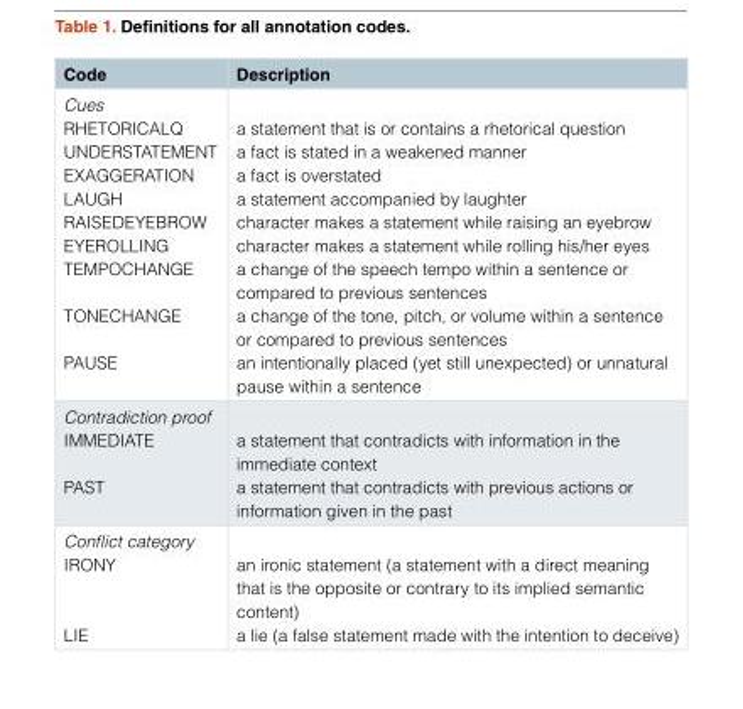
<table><thead><tr><td>Code</td><td>Description</td></tr></thead><tbody><tr><td>Cues RHETORICALQ UNDERSTATEMENT EXAGGERATION LAUGH RAISEDEYEBROW EYEROLLING TEMPOCHANGE TONECHANGE PAUSE</td><td>a statement that is or contains a rhetorical question a fact is stated in a weakened manner a fact is overstated a statement accompanied by laughter character makes a statement while raising an eyebrow character makes a statement while rolling his/her eyes a change of the speech tempo within a sentence or compared to previous sentences a change of the tone, pitch, or volume within a sentence or compared to previous sentences an intentionally placed (yet still unexpected) or unnatural pause within a sentence</td></tr><tr><td>Contradiction proof IMMEDIATE PAST</td><td>a statement that contradicts with information in the immediate context a statement that contradicts with previous actions or information given in the past</td></tr><tr><td>Conflict category IRONY LIE</td><td>an ironic statement (a statement with a direct meaning that is the opposite or contrary to its implied semantic content) a lie (a false statement made with the intention to deceive)</td></tr></tbody></table>